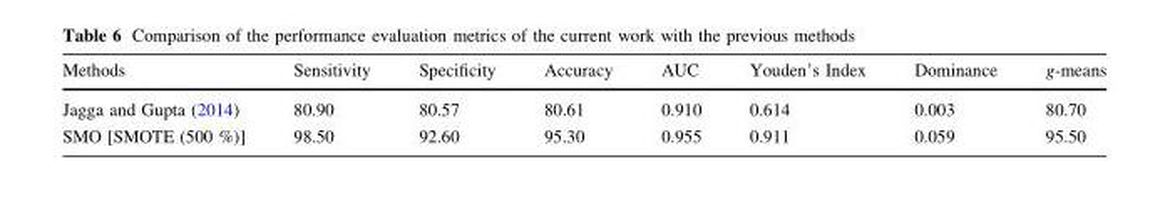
<table><thead><tr><td>Methods</td><td>Sensitivity</td><td>Specificity</td><td>Accuracy</td><td>AUC</td><td>Youden’s Index</td><td>Dominance</td><td>g-means</td></tr></thead><tbody><tr><td>Jagga and Gupta (2014)</td><td>80.90</td><td>80.57</td><td>80.61</td><td>0.910</td><td>0.614</td><td>0.003</td><td>80.70</td></tr><tr><td>SMO [SMOTE (500 %)]</td><td>98.50</td><td>92.60</td><td>95.30</td><td>0.955</td><td>0.911</td><td>0.059</td><td>95.50</td></tr></tbody></table>